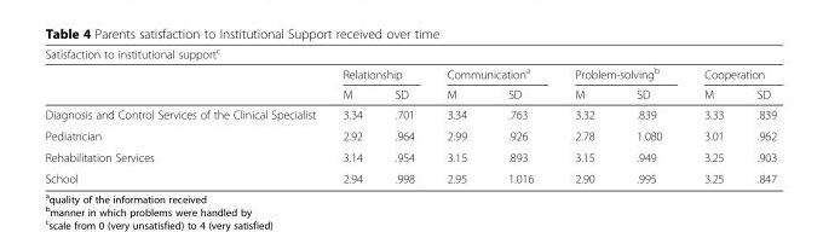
<table><thead><tr><td colspan="9">Satisfaction to institutional support<sup>c</sup></td></tr><tr><td rowspan="2"></td><td colspan="2">Relationship</td><td colspan="2">Communication<sup>a</sup></td><td colspan="2">Problem-solving<sup>b</sup></td><td colspan="2">Cooperation</td></tr><tr><td>M</td><td>SD</td><td>M</td><td>SD</td><td>M</td><td>SD</td><td>M</td><td>SD</td></tr></thead><tbody><tr><td>Diagnosis and Control Services of the Clinical Specialist</td><td>3.34</td><td>.701</td><td>3.34</td><td>.763</td><td>3.32</td><td>.839</td><td>3.33</td><td>.839</td></tr><tr><td>Pediatrician</td><td>2.92</td><td>.964</td><td>2.99</td><td>.926</td><td>2.78</td><td>1.080</td><td>3.01</td><td>.962</td></tr><tr><td>Rehabilitation Services</td><td>3.14</td><td>.954</td><td>3.15</td><td>.893</td><td>3.15</td><td>.949</td><td>3.25</td><td>.903</td></tr><tr><td>School</td><td>2.94</td><td>.998</td><td>2.95</td><td>1.016</td><td>2.90</td><td>.995</td><td>3.25</td><td>.847</td></tr></tbody></table>